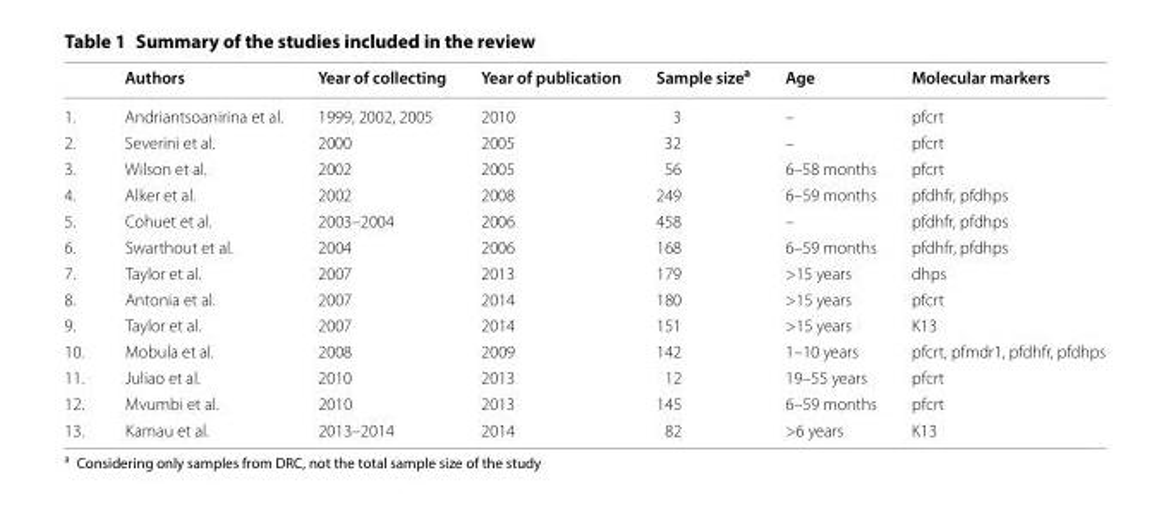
<table><thead><tr><td></td><td>Authors</td><td>Year of collecting</td><td>Year of publication</td><td>Sample size<sup>a</sup></td><td>Age</td><td>Molecular markers</td></tr></thead><tbody><tr><td>1.</td><td>Andriantsoanirina et al.</td><td>1999, 2002, 2005</td><td>2010</td><td>3</td><td>–</td><td>pfcrt</td></tr><tr><td>2.</td><td>Severini et al.</td><td>2000</td><td>2005</td><td>32</td><td>–</td><td>pfcrt</td></tr><tr><td>3.</td><td>Wilson et al.</td><td>2002</td><td>2005</td><td>56</td><td>6–58 months</td><td>pfcrt</td></tr><tr><td>4.</td><td>Alker et al.</td><td>2002</td><td>2008</td><td>249</td><td>6–59 months</td><td>pfdhfr, pfdhps</td></tr><tr><td>5.</td><td>Cohuet et al.</td><td>2003–2004</td><td>2006</td><td>458</td><td>–</td><td>pfdhfr, pfdhps</td></tr><tr><td>6.</td><td>Swarthout et al.</td><td>2004</td><td>2006</td><td>168</td><td>6–59 months</td><td>pfdhfr, pfdhps</td></tr><tr><td>7.</td><td>Taylor et al.</td><td>2007</td><td>2013</td><td>179</td><td>&gt;15 years</td><td>dhps</td></tr><tr><td>8.</td><td>Antonia et al.</td><td>2007</td><td>2014</td><td>180</td><td>&gt;15 years</td><td>pfcrt</td></tr><tr><td>9.</td><td>Taylor et al.</td><td>2007</td><td>2014</td><td>151</td><td>&gt;15 years</td><td>K13</td></tr><tr><td>10.</td><td>Mobula et al.</td><td>2008</td><td>2009</td><td>142</td><td>1–10 years</td><td>pfcrt, pfmdr1, pfdhfr, pfdhps</td></tr><tr><td>11.</td><td>Juliao et al.</td><td>2010</td><td>2013</td><td>12</td><td>19–55 years</td><td>pfcrt</td></tr><tr><td>12.</td><td>Mvumbi et al.</td><td>2010</td><td>2013</td><td>145</td><td>6–59 months</td><td>pfcrt</td></tr><tr><td>13.</td><td>Kamau et al.</td><td>2013–2014</td><td>2014</td><td>82</td><td>&gt;6 years</td><td>K13</td></tr></tbody></table>